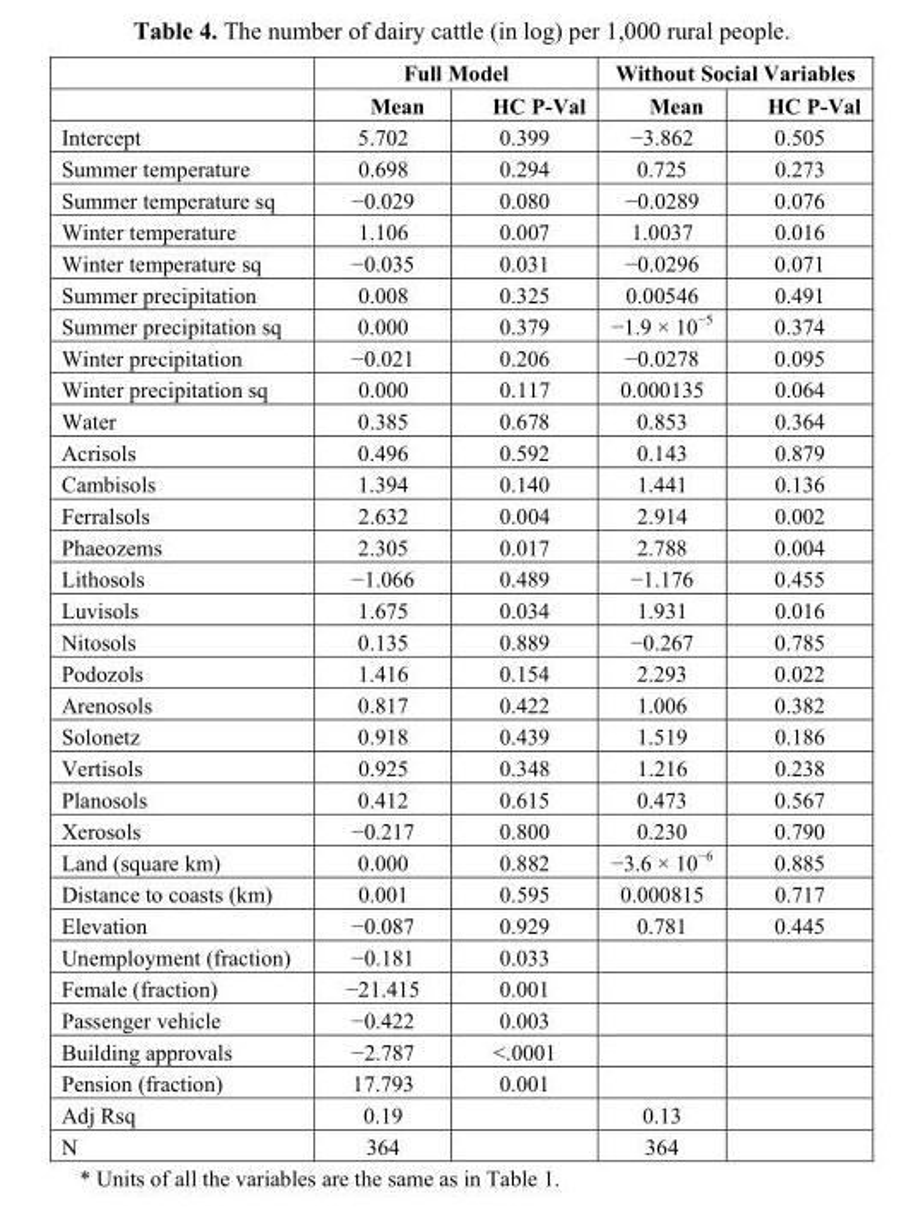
<table><thead><tr><td rowspan="2"></td><td colspan="2">Full Model</td><td colspan="2">Without Social Variables</td></tr><tr><td>Mean</td><td>HC P-Val</td><td>Mean</td><td>HC P-Val</td></tr></thead><tbody><tr><td>Intercept</td><td>5.702</td><td>0.399</td><td>−3.862</td><td>0.505</td></tr><tr><td>Summer temperature</td><td>0.698</td><td>0.294</td><td>0.725</td><td>0.273</td></tr><tr><td>Summer temperature sq</td><td>−0.029</td><td>0.080</td><td>−0.0289</td><td>0.076</td></tr><tr><td>Winter temperature</td><td>1.106</td><td>0.007</td><td>1.0037</td><td>0.016</td></tr><tr><td>Winter temperature sq</td><td>−0.035</td><td>0.031</td><td>−0.0296</td><td>0.071</td></tr><tr><td>Summer precipitation</td><td>0.008</td><td>0.325</td><td>0.00546</td><td>0.491</td></tr><tr><td>Summer precipitation sq</td><td>0.000</td><td>0.379</td><td>−1.9 × 10<sup>−5</sup></td><td>0.374</td></tr><tr><td>Winter precipitation</td><td>−0.021</td><td>0.206</td><td>−0.0278</td><td>0.095</td></tr><tr><td>Winter precipitation sq</td><td>0.000</td><td>0.117</td><td>0.000135</td><td>0.064</td></tr><tr><td>Water</td><td>0.385</td><td>0.678</td><td>0.853</td><td>0.364</td></tr><tr><td>Acrisols</td><td>0.496</td><td>0.592</td><td>0.143</td><td>0.879</td></tr><tr><td>Cambisols</td><td>1.394</td><td>0.140</td><td>1.441</td><td>0.136</td></tr><tr><td>Ferralsols</td><td>2.632</td><td>0.004</td><td>2.914</td><td>0.002</td></tr><tr><td>Phaeozems</td><td>2.305</td><td>0.017</td><td>2.788</td><td>0.004</td></tr><tr><td>Lithosols</td><td>−1.066</td><td>0.489</td><td>−1.176</td><td>0.455</td></tr><tr><td>Luvisols</td><td>1.675</td><td>0.034</td><td>1.931</td><td>0.016</td></tr><tr><td>Nitosols</td><td>0.135</td><td>0.889</td><td>−0.267</td><td>0.785</td></tr><tr><td>Podozols</td><td>1.416</td><td>0.154</td><td>2.293</td><td>0.022</td></tr><tr><td>Arenosols</td><td>0.817</td><td>0.422</td><td>1.006</td><td>0.382</td></tr><tr><td>Solonetz</td><td>0.918</td><td>0.439</td><td>1.519</td><td>0.186</td></tr><tr><td>Vertisols</td><td>0.925</td><td>0.348</td><td>1.216</td><td>0.238</td></tr><tr><td>Planosols</td><td>0.412</td><td>0.615</td><td>0.473</td><td>0.567</td></tr><tr><td>Xerosols</td><td>−0.217</td><td>0.800</td><td>0.230</td><td>0.790</td></tr><tr><td>Land (square km)</td><td>0.000</td><td>0.882</td><td>−3.6 × 10<sup>−6</sup></td><td>0.885</td></tr><tr><td>Distance to coasts (km)</td><td>0.001</td><td>0.595</td><td>0.000815</td><td>0.717</td></tr><tr><td>Elevation</td><td>−0.087</td><td>0.929</td><td>0.781</td><td>0.445</td></tr><tr><td>Unemployment (fraction)</td><td>−0.181</td><td>0.033</td><td></td><td></td></tr><tr><td>Female (fraction)</td><td>−21.415</td><td>0.001</td><td></td><td></td></tr><tr><td>Passenger vehicle</td><td>−0.422</td><td>0.003</td><td></td><td></td></tr><tr><td>Building approvals</td><td>−2.787</td><td>&lt;.0001</td><td></td><td></td></tr><tr><td>Pension (fraction)</td><td>17.793</td><td>0.001</td><td></td><td></td></tr><tr><td>Adj Rsq</td><td>0.19</td><td></td><td>0.13</td><td></td></tr><tr><td>N</td><td>364</td><td></td><td>364</td><td></td></tr></tbody></table>